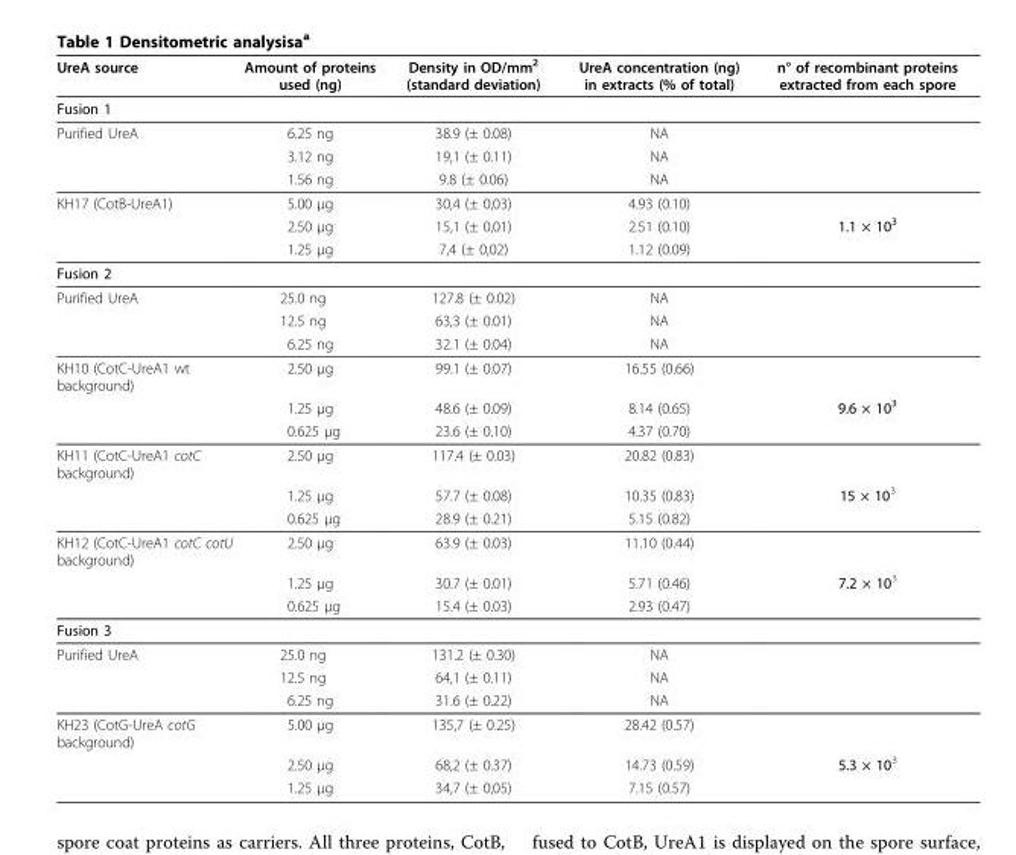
<table><thead><tr><td>UreA source</td><td>Amount of proteins used (ng)</td><td>Density in OD/mm<sup>2</sup> (standard deviation)</td><td>UreA concentration (ng) in extracts (% of total)</td><td>n° of recombinant proteins extracted from each spore</td></tr></thead><tbody><tr><td colspan="5">Fusion 1</td></tr><tr><td rowspan="3">Purified UreA</td><td>6.25 ng</td><td>38.9 (± 0.08)</td><td>NA</td><td></td></tr><tr><td>3.12 ng</td><td>19,1 (± 0.11)</td><td>NA</td><td></td></tr><tr><td>1.56 ng</td><td>9.8 (± 0.06)</td><td>NA</td><td></td></tr><tr><td rowspan="3">KH17 (CotB-UreA1)</td><td>5.00 μg</td><td>30,4 (± 0,03)</td><td>4.93 (0.10)</td><td></td></tr><tr><td>2.50 μg</td><td>15,1 (± 0,01)</td><td>2.51 (0.10)</td><td>1.1 × 10<sup>3</sup></td></tr><tr><td>1.25 μg</td><td>7,4 (± 0,02)</td><td>1.12 (0.09)</td><td></td></tr><tr><td colspan="5">Fusion 2</td></tr><tr><td rowspan="3">Purified UreA</td><td>25.0 ng</td><td>127.8 (± 0.02)</td><td>NA</td><td></td></tr><tr><td>12.5 ng</td><td>63,3 (± 0.01)</td><td>NA</td><td></td></tr><tr><td>6.25 ng</td><td>32.1 (± 0.04)</td><td>NA</td><td></td></tr><tr><td rowspan="3">KH10 (CotC-UreA1 wt background)</td><td>2.50 μg</td><td>99.1 (± 0.07)</td><td>16.55 (0.66)</td><td></td></tr><tr><td>1.25 μg</td><td>48.6 (± 0.09)</td><td>8.14 (0.65)</td><td>9.6 × 10<sup>3</sup></td></tr><tr><td>0.625 μg</td><td>23.6 (± 0.10)</td><td>4.37 (0.70)</td><td></td></tr><tr><td rowspan="3">KH11 (CotC-UreA1 cotC background)</td><td>2.50 μg</td><td>117.4 (± 0.03)</td><td>20.82 (0.83)</td><td></td></tr><tr><td>1.25 μg</td><td>57.7 (± 0.08)</td><td>10.35 (0.83)</td><td>15 × 10<sup>3</sup></td></tr><tr><td>0.625 μg</td><td>28.9 (± 0.21)</td><td>5.15 (0.82)</td><td></td></tr><tr><td rowspan="3">KH12 (CotC-UreA1 cotC cotU background)</td><td>2.50 μg</td><td>63.9 (± 0.03)</td><td>11.10 (0.44)</td><td></td></tr><tr><td>1.25 μg</td><td>30.7 (± 0.01)</td><td>5.71 (0.46)</td><td>7.2 × 10<sup>3</sup></td></tr><tr><td>0.625 μg</td><td>15.4 (± 0.03)</td><td>2.93 (0.47)</td><td></td></tr><tr><td colspan="5">Fusion 3</td></tr><tr><td rowspan="3">Purified UreA</td><td>25.0 ng</td><td>131.2 (± 0.30)</td><td>NA</td><td></td></tr><tr><td>12.5 ng</td><td>64,1 (± 0.11)</td><td>NA</td><td></td></tr><tr><td>6.25 ng</td><td>31.6 (± 0.22)</td><td>NA</td><td></td></tr><tr><td rowspan="3">KH23 (CotG-UreA cotG background)</td><td>5.00 μg</td><td>135,7 (± 0.25)</td><td>28.42 (0.57)</td><td></td></tr><tr><td>2.50 μg</td><td>68,2 (± 0.37)</td><td>14.73 (0.59)</td><td>5.3 × 10<sup>3</sup></td></tr><tr><td>1.25 μg</td><td>34,7 (± 0,05)</td><td>7.15 (0.57)</td><td></td></tr></tbody></table>